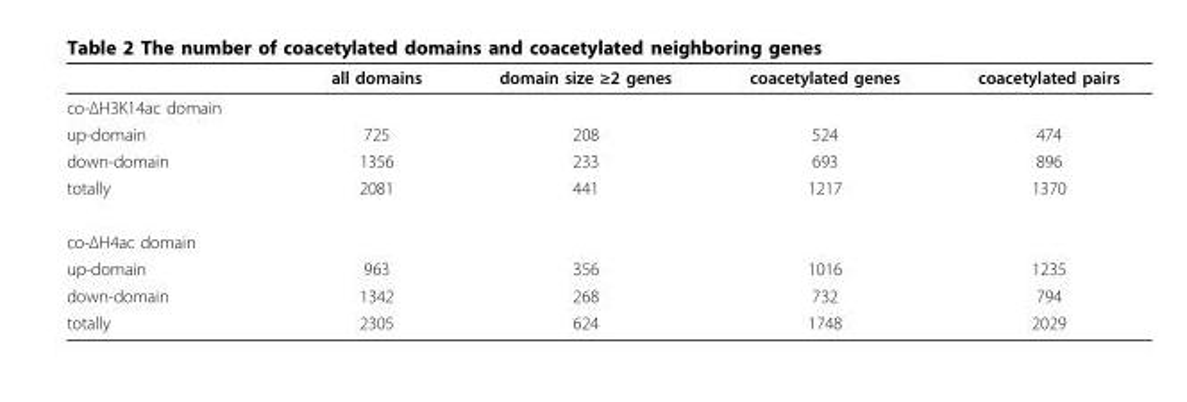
<table><thead><tr><td></td><td>all domains</td><td>domain size ≥2 genes</td><td>coacetylated genes</td><td>coacetylated pairs</td></tr></thead><tbody><tr><td colspan="5">co-ΔH3K14ac domain</td></tr><tr><td>up-domain</td><td>725</td><td>208</td><td>524</td><td>474</td></tr><tr><td>down-domain</td><td>1356</td><td>233</td><td>693</td><td>896</td></tr><tr><td>totally</td><td>2081</td><td>441</td><td>1217</td><td>1370</td></tr><tr><td colspan="5">co-ΔH4ac domain</td></tr><tr><td>up-domain</td><td>963</td><td>356</td><td>1016</td><td>1235</td></tr><tr><td>down-domain</td><td>1342</td><td>268</td><td>732</td><td>794</td></tr><tr><td>totally</td><td>2305</td><td>624</td><td>1748</td><td>2029</td></tr></tbody></table>